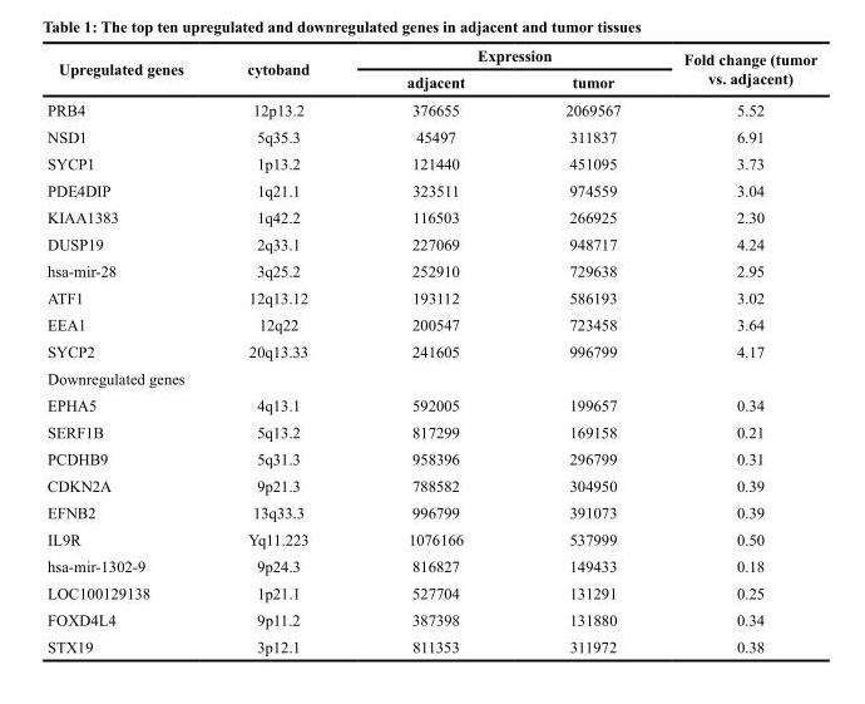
<table><thead><tr><td rowspan="2">Upregulated genes</td><td rowspan="2">cytoband</td><td colspan="2">Expression</td><td rowspan="2">Fold change (tumor vs. adjacent)</td></tr><tr><td>adjacent</td><td>tumor</td></tr></thead><tbody><tr><td>PRB4</td><td>12p13.2</td><td>376655</td><td>2069567</td><td>5.52</td></tr><tr><td>NSD1</td><td>5q35.3</td><td>45497</td><td>311837</td><td>6.91</td></tr><tr><td>SYCP1</td><td>1p13.2</td><td>121440</td><td>451095</td><td>3.73</td></tr><tr><td>PDE4DIP</td><td>1q21.1</td><td>323511</td><td>974559</td><td>3.04</td></tr><tr><td>KIAA1383</td><td>1q42.2</td><td>116503</td><td>266925</td><td>2.30</td></tr><tr><td>DUSP19</td><td>2q33.1</td><td>227069</td><td>948717</td><td>4.24</td></tr><tr><td>hsa-mir-28</td><td>3q25.2</td><td>252910</td><td>729638</td><td>2.95</td></tr><tr><td>ATF1</td><td>12q13.12</td><td>193112</td><td>586193</td><td>3.02</td></tr><tr><td>EEA1</td><td>12q22</td><td>200547</td><td>723458</td><td>3.64</td></tr><tr><td>SYCP2</td><td>20q13.33</td><td>241605</td><td>996799</td><td>4.17</td></tr><tr><td colspan="5">Downregulated genes</td></tr><tr><td>EPHA5</td><td>4q13.1</td><td>592005</td><td>199657</td><td>0.34</td></tr><tr><td>SERF1B</td><td>5q13.2</td><td>817299</td><td>169158</td><td>0.21</td></tr><tr><td>PCDHB9</td><td>5q31.3</td><td>958396</td><td>296799</td><td>0.31</td></tr><tr><td>CDKN2A</td><td>9p21.3</td><td>788582</td><td>304950</td><td>0.39</td></tr><tr><td>EFNB2</td><td>13q33.3</td><td>996799</td><td>391073</td><td>0.39</td></tr><tr><td>IL9R</td><td>Yq11.223</td><td>1076166</td><td>537999</td><td>0.50</td></tr><tr><td>hsa-mir-1302-9</td><td>9p24.3</td><td>816827</td><td>149433</td><td>0.18</td></tr><tr><td>LOC100129138</td><td>1p21.1</td><td>527704</td><td>131291</td><td>0.25</td></tr><tr><td>FOXD4L4</td><td>9p11.2</td><td>387398</td><td>131880</td><td>0.34</td></tr><tr><td>STX19</td><td>3p12.1</td><td>811353</td><td>311972</td><td>0.38</td></tr></tbody></table>